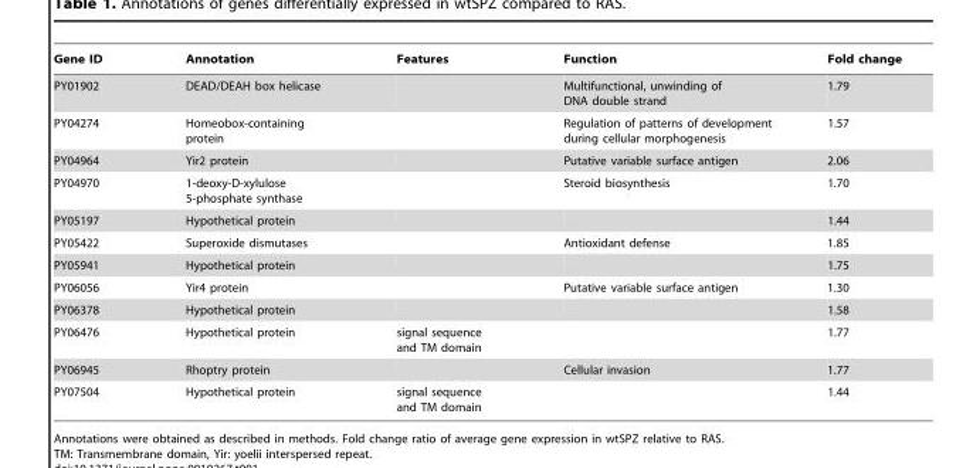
<table><thead><tr><td>Gene ID</td><td>Annotation</td><td>Features</td><td>Function</td><td>Fold change</td></tr></thead><tbody><tr><td>PY01902</td><td>DEAD/DEAH box helicase</td><td></td><td>Multifunctional, unwinding of DNA double strand</td><td>1.79</td></tr><tr><td>PY04274</td><td>Homeobox-containing protein</td><td></td><td>Regulation of patterns of development during cellular morphogenesis</td><td>1.57</td></tr><tr><td>PY04964</td><td>Yir2 protein</td><td></td><td>Putative variable surface antigen</td><td>2.06</td></tr><tr><td>PY04970</td><td>1-deoxy-D-xylulose 5-phosphate synthase</td><td></td><td>Steroid biosynthesis</td><td>1.70</td></tr><tr><td>PY05197</td><td>Hypothetical protein</td><td></td><td></td><td>1.44</td></tr><tr><td>PY05422</td><td>Superoxide dismutases</td><td></td><td>Antioxidant defense</td><td>1.85</td></tr><tr><td>PY05941</td><td>Hypothetical protein</td><td></td><td></td><td>1.75</td></tr><tr><td>PY06056</td><td>Yir4 protein</td><td></td><td>Putative variable surface antigen</td><td>1.30</td></tr><tr><td>PY06378</td><td>Hypothetical protein</td><td></td><td></td><td>1.58</td></tr><tr><td>PY06476</td><td>Hypothetical protein</td><td>signal sequence and TM domain</td><td></td><td>1.77</td></tr><tr><td>PY06945</td><td>Rhoptry protein</td><td></td><td>Cellular invasion</td><td>1.77</td></tr><tr><td>PY07504</td><td>Hypothetical protein</td><td>signal sequence and TM domain</td><td></td><td>1.44</td></tr></tbody></table>